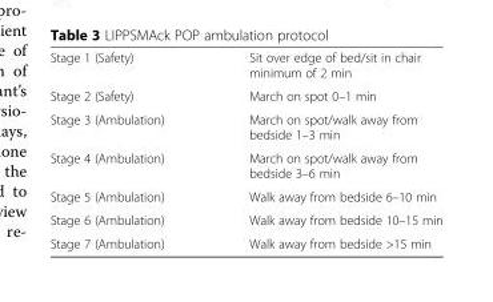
<table><tbody><tr><td>Stage 1 (Safety)</td><td>Sit over edge of bed/sit in chair minimum of 2 min</td></tr><tr><td>Stage 2 (Safety)</td><td>March on spot 0–1 min</td></tr><tr><td>Stage 3 (Ambulation)</td><td>March on spot/walk away from bedside 1–3 min</td></tr><tr><td>Stage 4 (Ambulation)</td><td>March on spot/walk away from bedside 3–6 min</td></tr><tr><td>Stage 5 (Ambulation)</td><td>Walk away from bedside 6–10 min</td></tr><tr><td>Stage 6 (Ambulation)</td><td>Walk away from bedside 10–15 min</td></tr><tr><td>Stage 7 (Ambulation)</td><td>Walk away from bedside &gt;15 min</td></tr></tbody></table>